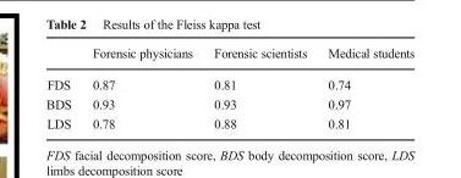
<table><thead><tr><td></td><td>Forensic physicians</td><td>Forensic scientists</td><td>Medical students</td></tr></thead><tbody><tr><td>FDS</td><td>0.87</td><td>0.81</td><td>0.74</td></tr><tr><td>BDS</td><td>0.93</td><td>0.93</td><td>0.97</td></tr><tr><td>LDS</td><td>0.78</td><td>0.88</td><td>0.81</td></tr></tbody></table>